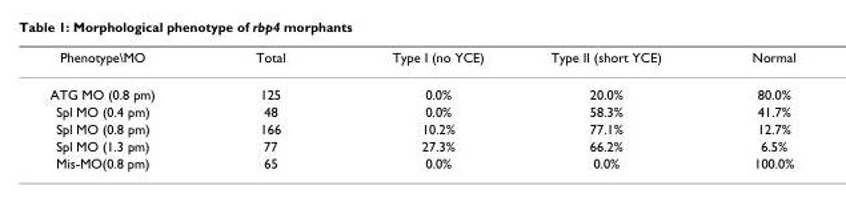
<table><thead><tr><td>Phenotype\MO</td><td>Total</td><td>Type I (no YCE)</td><td>Type II (short YCE)</td><td>Normal</td></tr></thead><tbody><tr><td>ATG MO (0.8 pm)</td><td>125</td><td>0.0%</td><td>20.0%</td><td>80.0%</td></tr><tr><td>Spl MO (0.4 pm)</td><td>48</td><td>0.0%</td><td>58.3%</td><td>41.7%</td></tr><tr><td>Spl MO (0.8 pm)</td><td>166</td><td>10.2%</td><td>77.1%</td><td>12.7%</td></tr><tr><td>Spl MO (1.3 pm)</td><td>77</td><td>27.3%</td><td>66.2%</td><td>6.5%</td></tr><tr><td>Mis-MO(0.8 pm)</td><td>65</td><td>0.0%</td><td>0.0%</td><td>100.0%</td></tr></tbody></table>